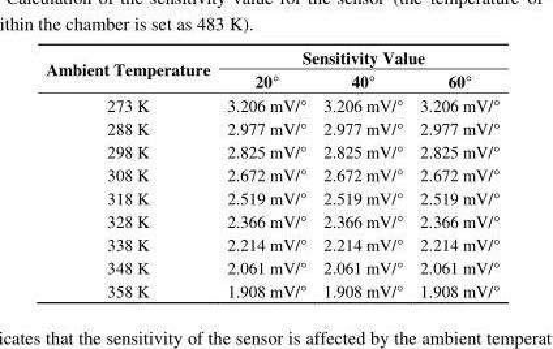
<table><thead><tr><td rowspan="2">Ambient Temperature</td><td colspan="3">Sensitivity Value</td></tr><tr><td>20°</td><td>40°</td><td>60°</td></tr></thead><tbody><tr><td>273 K</td><td>3.206 mV/°</td><td>3.206 mV/°</td><td>3.206 mV/°</td></tr><tr><td>288 K</td><td>2.977 mV/°</td><td>2.977 mV/°</td><td>2.977 mV/°</td></tr><tr><td>298 K</td><td>2.825 mV/°</td><td>2.825 mV/°</td><td>2.825 mV/°</td></tr><tr><td>308 K</td><td>2.672 mV/°</td><td>2.672 mV/°</td><td>2.672 mV/°</td></tr><tr><td>318 K</td><td>2.519 mV/°</td><td>2.519 mV/°</td><td>2.519 mV/°</td></tr><tr><td>328 K</td><td>2.366 mV/°</td><td>2.366 mV/°</td><td>2.366 mV/°</td></tr><tr><td>338 K</td><td>2.214 mV/°</td><td>2.214 mV/°</td><td>2.214 mV/°</td></tr><tr><td>348 K</td><td>2.061 mV/°</td><td>2.061 mV/°</td><td>2.061 mV/°</td></tr><tr><td>358 K</td><td>1.908 mV/°</td><td>1.908 mV/°</td><td>1.908 mV/°</td></tr></tbody></table>